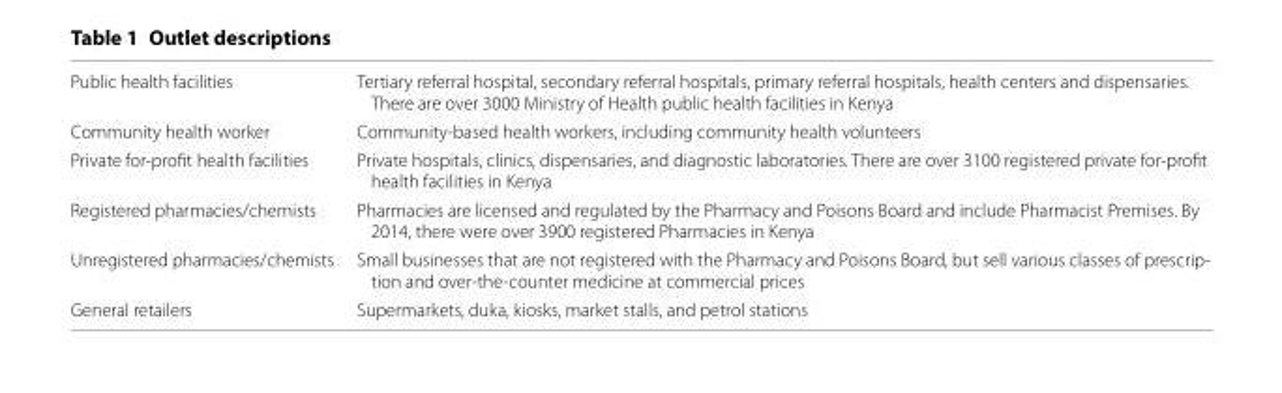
<table><tbody><tr><td>Public health facilities</td><td>Tertiary referral hospital, secondary referral hospitals, primary referral hospitals, health centers and dispensaries. There are over 3000 Ministry of Health public health facilities in Kenya</td></tr><tr><td>Community health worker</td><td>Community-based health workers, including community health volunteers</td></tr><tr><td>Private for-profit health facilities</td><td>Private hospitals, clinics, dispensaries, and diagnostic laboratories. There are over 3100 registered private for-profit health facilities in Kenya</td></tr><tr><td>Registered pharmacies/chemists</td><td>Pharmacies are licensed and regulated by the Pharmacy and Poisons Board and include Pharmacist Premises. By 2014, there were over 3900 registered Pharmacies in Kenya</td></tr><tr><td>Unregistered pharmacies/chemists</td><td>Small businesses that are not registered with the Pharmacy and Poisons Board, but sell various classes of prescrip- tion and over-the-counter medicine at commercial prices</td></tr><tr><td>General retailers</td><td>Supermarkets, duka, kiosks, market stalls, and petrol stations</td></tr></tbody></table>